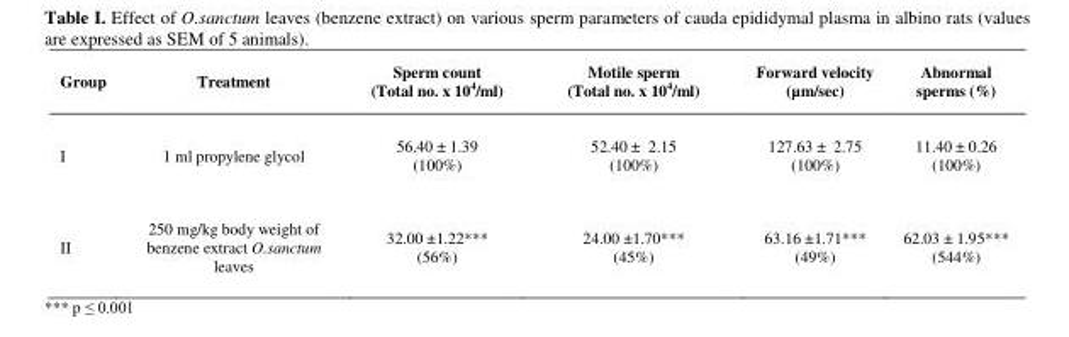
<table><thead><tr><td>Group</td><td>Treatment</td><td>Sperm count (Total no. x 10<sup>4</sup>/ml)</td><td>Motile sperm (Total no. x 10<sup>4</sup>/ml)</td><td>Forward velocity (µm/sec)</td><td>Abnormal sperms (%)</td></tr></thead><tbody><tr><td>I</td><td>1 ml propylene glycol</td><td>56.40 ± 1.39 (100%)</td><td>52.40 ± 2.15 (100%)</td><td>127.63 ± 2.75 (100%)</td><td>11.40 ± 0.26 (100%)</td></tr><tr><td>II</td><td>250 mg/kg body weight of benzene extract O.sanctum leaves</td><td>32.00 ±1.22*** (56%)</td><td>24.00 ±1.70*** (45%)</td><td>63.16 ±1.71*** (49%)</td><td>62.03 ± 1.95*** (544%)</td></tr></tbody></table>